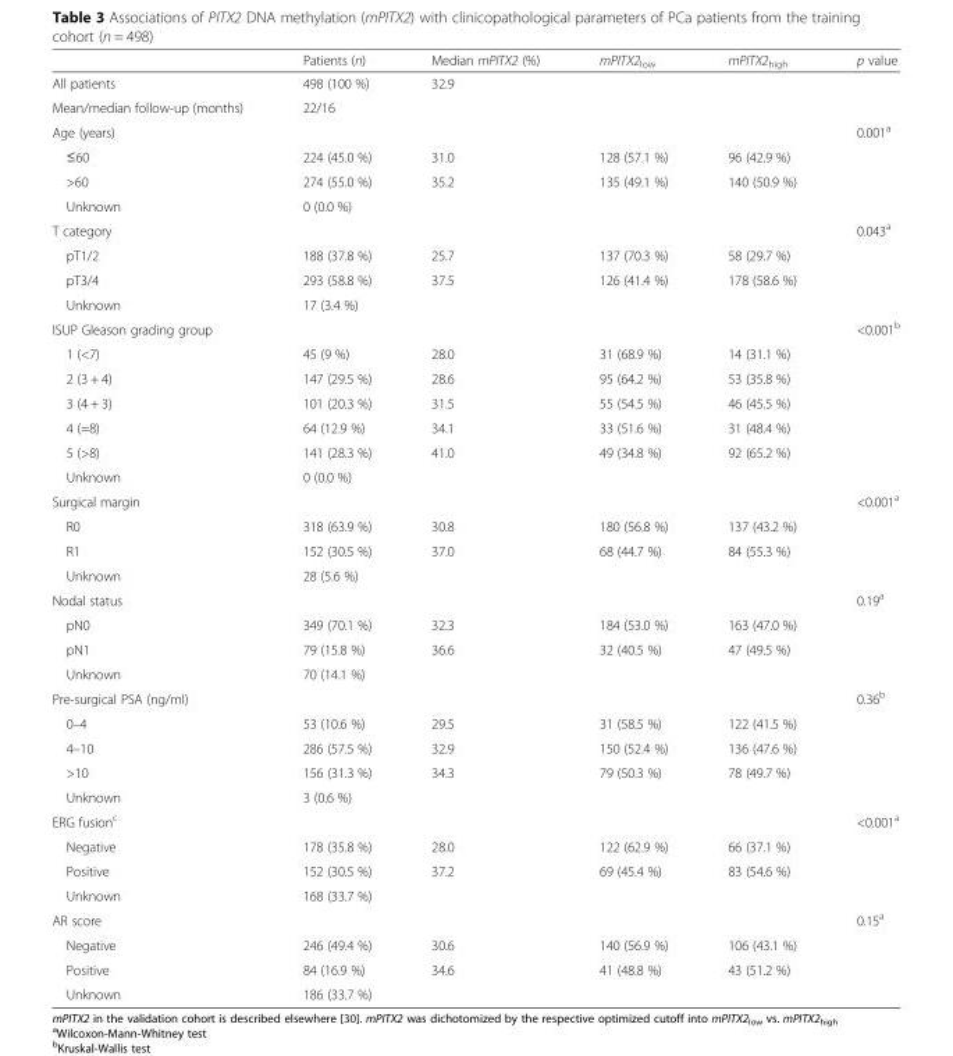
<table><thead><tr><td></td><td>Patients (n)</td><td>Median mPITX2 (%)</td><td>mPITX2<sub>low</sub></td><td>mPITX2<sub>high</sub></td><td>p value</td></tr></thead><tbody><tr><td>All patients</td><td>498 (100 %)</td><td>32.9</td><td></td><td></td><td></td></tr><tr><td>Mean/median follow-up (months)</td><td>22/16</td><td></td><td></td><td></td><td></td></tr><tr><td>Age (years)</td><td></td><td></td><td></td><td></td><td>0.001<sup>a</sup></td></tr><tr><td>≤60</td><td>224 (45.0 %)</td><td>31.0</td><td>128 (57.1 %)</td><td>96 (42.9 %)</td><td></td></tr><tr><td>&gt;60</td><td>274 (55.0 %)</td><td>35.2</td><td>135 (49.1 %)</td><td>140 (50.9 %)</td><td></td></tr><tr><td>Unknown</td><td>0 (0.0 %)</td><td></td><td></td><td></td><td></td></tr><tr><td>T category</td><td></td><td></td><td></td><td></td><td>0.043<sup>a</sup></td></tr><tr><td>pT1/2</td><td>188 (37.8 %)</td><td>25.7</td><td>137 (70.3 %)</td><td>58 (29.7 %)</td><td></td></tr><tr><td>pT3/4</td><td>293 (58.8 %)</td><td>37.5</td><td>126 (41.4 %)</td><td>178 (58.6 %)</td><td></td></tr><tr><td>Unknown</td><td>17 (3.4 %)</td><td></td><td></td><td></td><td></td></tr><tr><td>ISUP Gleason grading group</td><td></td><td></td><td></td><td></td><td>&lt;0.001<sup>b</sup></td></tr><tr><td>1 (&lt;7)</td><td>45 (9 %)</td><td>28.0</td><td>31 (68.9 %)</td><td>14 (31.1 %)</td><td></td></tr><tr><td>2 (3 + 4)</td><td>147 (29.5 %)</td><td>28.6</td><td>95 (64.2 %)</td><td>53 (35.8 %)</td><td></td></tr><tr><td>3 (4 + 3)</td><td>101 (20.3 %)</td><td>31.5</td><td>55 (54.5 %)</td><td>46 (45.5 %)</td><td></td></tr><tr><td>4 (=8)</td><td>64 (12.9 %)</td><td>34.1</td><td>33 (51.6 %)</td><td>31 (48.4 %)</td><td></td></tr><tr><td>5 (&gt;8)</td><td>141 (28.3 %)</td><td>41.0</td><td>49 (34.8 %)</td><td>92 (65.2 %)</td><td></td></tr><tr><td>Unknown</td><td>0 (0.0 %)</td><td></td><td></td><td></td><td></td></tr><tr><td>Surgical margin</td><td></td><td></td><td></td><td></td><td>&lt;0.001<sup>a</sup></td></tr><tr><td>R0</td><td>318 (63.9 %)</td><td>30.8</td><td>180 (56.8 %)</td><td>137 (43.2 %)</td><td></td></tr><tr><td>R1</td><td>152 (30.5 %)</td><td>37.0</td><td>68 (44.7 %)</td><td>84 (55.3 %)</td><td></td></tr><tr><td>Unknown</td><td>28 (5.6 %)</td><td></td><td></td><td></td><td></td></tr><tr><td>Nodal status</td><td></td><td></td><td></td><td></td><td>0.19<sup>a</sup></td></tr><tr><td>pN0</td><td>349 (70.1 %)</td><td>32.3</td><td>184 (53.0 %)</td><td>163 (47.0 %)</td><td></td></tr><tr><td>pN1</td><td>79 (15.8 %)</td><td>36.6</td><td>32 (40.5 %)</td><td>47 (49.5 %)</td><td></td></tr><tr><td>Unknown</td><td>70 (14.1 %)</td><td></td><td></td><td></td><td></td></tr><tr><td>Pre-surgical PSA (ng/ml)</td><td></td><td></td><td></td><td></td><td>0.36<sup>b</sup></td></tr><tr><td>0–4</td><td>53 (10.6 %)</td><td>29.5</td><td>31 (58.5 %)</td><td>122 (41.5 %)</td><td></td></tr><tr><td>4–10</td><td>286 (57.5 %)</td><td>32.9</td><td>150 (52.4 %)</td><td>136 (47.6 %)</td><td></td></tr><tr><td>&gt;10</td><td>156 (31.3 %)</td><td>34.3</td><td>79 (50.3 %)</td><td>78 (49.7 %)</td><td></td></tr><tr><td>Unknown</td><td>3 (0.6 %)</td><td></td><td></td><td></td><td></td></tr><tr><td>ERG fusion<sup>c</sup></td><td></td><td></td><td></td><td></td><td>&lt;0.001<sup>a</sup></td></tr><tr><td>Negative</td><td>178 (35.8 %)</td><td>28.0</td><td>122 (62.9 %)</td><td>66 (37.1 %)</td><td></td></tr><tr><td>Positive</td><td>152 (30.5 %)</td><td>37.2</td><td>69 (45.4 %)</td><td>83 (54.6 %)</td><td></td></tr><tr><td>Unknown</td><td>168 (33.7 %)</td><td></td><td></td><td></td><td></td></tr><tr><td>AR score</td><td></td><td></td><td></td><td></td><td>0.15<sup>a</sup></td></tr><tr><td>Negative</td><td>246 (49.4 %)</td><td>30.6</td><td>140 (56.9 %)</td><td>106 (43.1 %)</td><td></td></tr><tr><td>Positive</td><td>84 (16.9 %)</td><td>34.6</td><td>41 (48.8 %)</td><td>43 (51.2 %)</td><td></td></tr><tr><td>Unknown</td><td>186 (33.7 %)</td><td></td><td></td><td></td><td></td></tr></tbody></table>